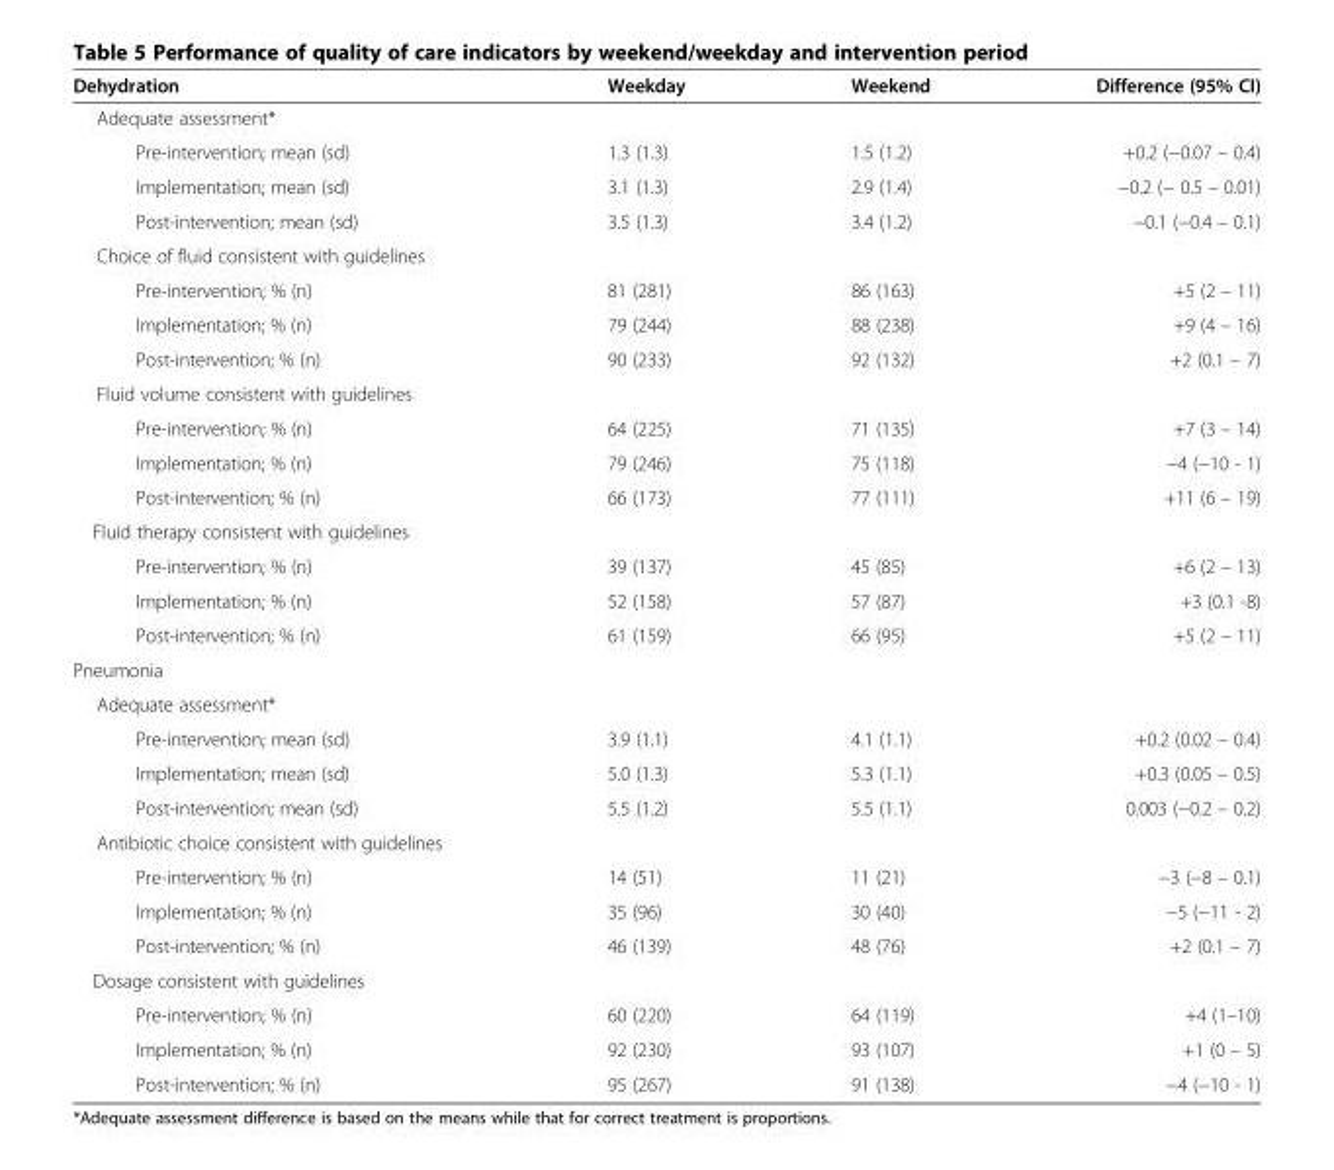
<table><thead><tr><td>Dehydration</td><td>Weekday</td><td>Weekend</td><td>Difference (95% CI)</td></tr></thead><tbody><tr><td colspan="4">Adequate assessment*</td></tr><tr><td>Pre-intervention; mean (sd)</td><td>1.3 (1.3)</td><td>1.5 (1.2)</td><td>+0.2 (−0.07 – 0.4)</td></tr><tr><td>Implementation; mean (sd)</td><td>3.1 (1.3)</td><td>2.9 (1.4)</td><td>−0.2 (− 0.5 – 0.01)</td></tr><tr><td>Post-intervention; mean (sd)</td><td>3.5 (1.3)</td><td>3.4 (1.2)</td><td>−0.1 (−0.4 – 0.1)</td></tr><tr><td colspan="4">Choice of fluid consistent with guidelines</td></tr><tr><td>Pre-intervention; % (n)</td><td>81 (281)</td><td>86 (163)</td><td>+5 (2 – 11)</td></tr><tr><td>Implementation; % (n)</td><td>79 (244)</td><td>88 (238)</td><td>+9 (4 – 16)</td></tr><tr><td>Post-intervention; % (n)</td><td>90 (233)</td><td>92 (132)</td><td>+2 (0.1 – 7)</td></tr><tr><td colspan="4">Fluid volume consistent with guidelines</td></tr><tr><td>Pre-intervention; % (n)</td><td>64 (225)</td><td>71 (135)</td><td>+7 (3 – 14)</td></tr><tr><td>Implementation; % (n)</td><td>79 (246)</td><td>75 (118)</td><td>−4 (−10 - 1)</td></tr><tr><td>Post-intervention; % (n)</td><td>66 (173)</td><td>77 (111)</td><td>+11 (6 – 19)</td></tr><tr><td colspan="4">Fluid therapy consistent with guidelines</td></tr><tr><td>Pre-intervention; % (n)</td><td>39 (137)</td><td>45 (85)</td><td>+6 (2 – 13)</td></tr><tr><td>Implementation; % (n)</td><td>52 (158)</td><td>57 (87)</td><td>+3 (0.1 -8)</td></tr><tr><td>Post-intervention; % (n)</td><td>61 (159)</td><td>66 (95)</td><td>+5 (2 – 11)</td></tr><tr><td colspan="4">Pneumonia</td></tr><tr><td colspan="4">Adequate assessment*</td></tr><tr><td>Pre-intervention; mean (sd)</td><td>3.9 (1.1)</td><td>4.1 (1.1)</td><td>+0.2 (0.02 – 0.4)</td></tr><tr><td>Implementation; mean (sd)</td><td>5.0 (1.3)</td><td>5.3 (1.1)</td><td>+0.3 (0.05 – 0.5)</td></tr><tr><td>Post-intervention; mean (sd)</td><td>5.5 (1.2)</td><td>5.5 (1.1)</td><td>0.003 (−0.2 – 0.2)</td></tr><tr><td colspan="4">Antibiotic choice consistent with guidelines</td></tr><tr><td>Pre-intervention; % (n)</td><td>14 (51)</td><td>11 (21)</td><td>−3 (−8 – 0.1)</td></tr><tr><td>Implementation; % (n)</td><td>35 (96)</td><td>30 (40)</td><td>−5 (−11 - 2)</td></tr><tr><td>Post-intervention; % (n)</td><td>46 (139)</td><td>48 (76)</td><td>+2 (0.1 – 7)</td></tr><tr><td colspan="4">Dosage consistent with guidelines</td></tr><tr><td>Pre-intervention; % (n)</td><td>60 (220)</td><td>64 (119)</td><td>+4 (1–10)</td></tr><tr><td>Implementation; % (n)</td><td>92 (230)</td><td>93 (107)</td><td>+1 (0 – 5)</td></tr><tr><td>Post-intervention; % (n)</td><td>95 (267)</td><td>91 (138)</td><td>−4 (−10 - 1)</td></tr></tbody></table>